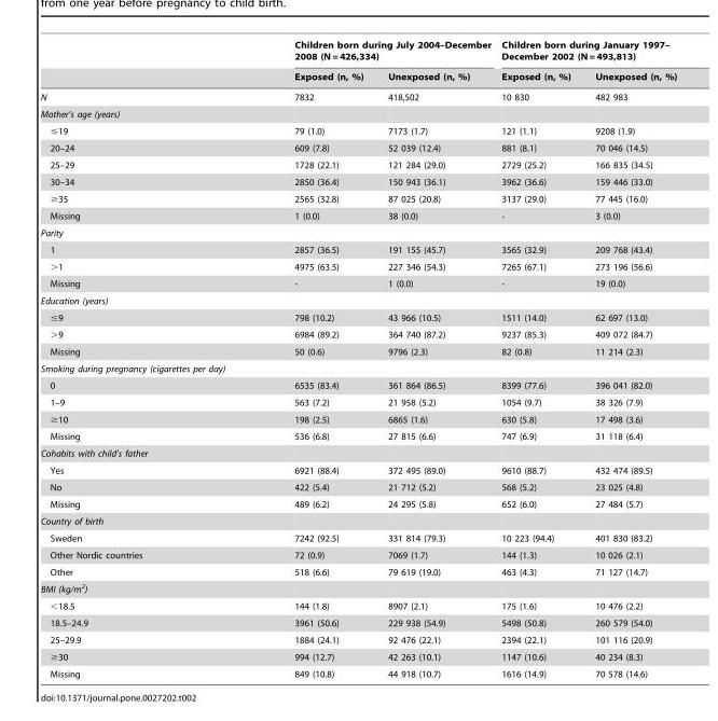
<table><thead><tr><td rowspan="2"></td><td colspan="2">Children born during July 2004–December 2008 (N = 426,334)</td><td colspan="2">Children born during January 1997– December 2002 (N = 493,813)</td></tr><tr><td>Exposed (n, %)</td><td>Unexposed (n, %)</td><td>Exposed (n, %)</td><td>Unexposed (n, %)</td></tr></thead><tbody><tr><td>N</td><td>7832</td><td>418,502</td><td>10 830</td><td>482 983</td></tr><tr><td colspan="5">Mother’s age (years)</td></tr><tr><td>≤19</td><td>79 (1.0)</td><td>7173 (1.7)</td><td>121 (1.1)</td><td>9208 (1.9)</td></tr><tr><td>20–24</td><td>609 (7.8)</td><td>52 039 (12.4)</td><td>881 (8.1)</td><td>70 046 (14.5)</td></tr><tr><td>25–29</td><td>1728 (22.1)</td><td>121 284 (29.0)</td><td>2729 (25.2)</td><td>166 835 (34.5)</td></tr><tr><td>30–34</td><td>2850 (36.4)</td><td>150 943 (36.1)</td><td>3962 (36.6)</td><td>159 446 (33.0)</td></tr><tr><td>≥35</td><td>2565 (32.8)</td><td>87 025 (20.8)</td><td>3137 (29.0)</td><td>77 445 (16.0)</td></tr><tr><td>Missing</td><td>1 (0.0)</td><td>38 (0.0)</td><td>-</td><td>3 (0.0)</td></tr><tr><td colspan="5">Parity</td></tr><tr><td>1</td><td>2857 (36.5)</td><td>191 155 (45.7)</td><td>3565 (32.9)</td><td>209 768 (43.4)</td></tr><tr><td>&gt;1</td><td>4975 (63.5)</td><td>227 346 (54.3)</td><td>7265 (67.1)</td><td>273 196 (56.6)</td></tr><tr><td>Missing</td><td>-</td><td>1 (0.0)</td><td>-</td><td>19 (0.0)</td></tr><tr><td colspan="5">Education (years)</td></tr><tr><td>≤9</td><td>798 (10.2)</td><td>43 966 (10.5)</td><td>1511 (14.0)</td><td>62 697 (13.0)</td></tr><tr><td>&gt;9</td><td>6984 (89.2)</td><td>364 740 (87.2)</td><td>9237 (85.3)</td><td>409 072 (84.7)</td></tr><tr><td>Missing</td><td>50 (0.6)</td><td>9796 (2.3)</td><td>82 (0.8)</td><td>11 214 (2.3)</td></tr><tr><td colspan="5">Smoking during pregnancy (cigarettes per day)</td></tr><tr><td>0</td><td>6535 (83.4)</td><td>361 864 (86.5)</td><td>8399 (77.6)</td><td>396 041 (82.0)</td></tr><tr><td>1–9</td><td>563 (7.2)</td><td>21 958 (5.2)</td><td>1054 (9.7)</td><td>38 326 (7.9)</td></tr><tr><td>≥10</td><td>198 (2.5)</td><td>6865 (1.6)</td><td>630 (5.8)</td><td>17 498 (3.6)</td></tr><tr><td>Missing</td><td>536 (6.8)</td><td>27 815 (6.6)</td><td>747 (6.9)</td><td>31 118 (6.4)</td></tr><tr><td colspan="5">Cohabits with child’s father</td></tr><tr><td>Yes</td><td>6921 (88.4)</td><td>372 495 (89.0)</td><td>9610 (88.7)</td><td>432 474 (89.5)</td></tr><tr><td>No</td><td>422 (5.4)</td><td>21 712 (5.2)</td><td>568 (5.2)</td><td>23 025 (4.8)</td></tr><tr><td>Missing</td><td>489 (6.2)</td><td>24 295 (5.8)</td><td>652 (6.0)</td><td>27 484 (5.7)</td></tr><tr><td colspan="5">Country of birth</td></tr><tr><td>Sweden</td><td>7242 (92.5)</td><td>331 814 (79.3)</td><td>10 223 (94.4)</td><td>401 830 (83.2)</td></tr><tr><td>Other Nordic countries</td><td>72 (0.9)</td><td>7069 (1.7)</td><td>144 (1.3)</td><td>10 026 (2.1)</td></tr><tr><td>Other</td><td>518 (6.6)</td><td>79 619 (19.0)</td><td>463 (4.3)</td><td>71 127 (14.7)</td></tr><tr><td colspan="5">BMI (kg/m<sup>2</sup>)</td></tr><tr><td>&lt;18.5</td><td>144 (1.8)</td><td>8907 (2.1)</td><td>175 (1.6)</td><td>10 476 (2.2)</td></tr><tr><td>18.5–24.9</td><td>3961 (50.6)</td><td>229 938 (54.9)</td><td>5498 (50.8)</td><td>260 579 (54.0)</td></tr><tr><td>25–29.9</td><td>1884 (24.1)</td><td>92 476 (22.1)</td><td>2394 (22.1)</td><td>101 116 (20.9)</td></tr><tr><td>≥30</td><td>994 (12.7)</td><td>42 263 (10.1)</td><td>1147 (10.6)</td><td>40 234 (8.3)</td></tr><tr><td>Missing</td><td>849 (10.8)</td><td>44 918 (10.7)</td><td>1616 (14.9)</td><td>70 578 (14.6)</td></tr></tbody></table>